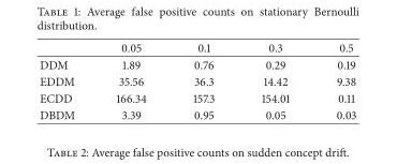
<table><thead><tr><td></td><td>0.05</td><td>0.1</td><td>0.3</td><td>0.5</td></tr></thead><tbody><tr><td>DDM</td><td>1.89</td><td>0.76</td><td>0.29</td><td>0.19</td></tr><tr><td>EDDM</td><td>35.56</td><td>36.3</td><td>14.42</td><td>9.38</td></tr><tr><td>ECDD</td><td>166.34</td><td>157.3</td><td>154.01</td><td>0.11</td></tr><tr><td>DBDM</td><td>3.39</td><td>0.95</td><td>0.05</td><td>0.03</td></tr></tbody></table>